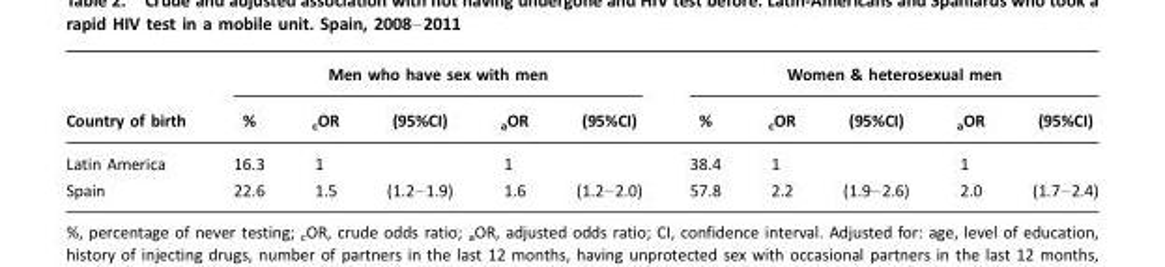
<table><thead><tr><td rowspan="2">Country of birth</td><td colspan="5">Men who have sex with men</td><td colspan="5">Women &amp; heterosexual men</td></tr><tr><td>%</td><td><sub>c</sub>OR</td><td>(95%CI)</td><td><sub>a</sub>OR</td><td>(95%CI)</td><td>%</td><td><sub>c</sub>OR</td><td>(95%CI)</td><td><sub>a</sub>OR</td><td>(95%CI)</td></tr></thead><tbody><tr><td>Latin America</td><td>16.3</td><td>1</td><td></td><td>1</td><td></td><td>38.4</td><td>1</td><td></td><td>1</td><td></td></tr><tr><td>Spain</td><td>22.6</td><td>1.5</td><td>(1.2–1.9)</td><td>1.6</td><td>(1.2–2.0)</td><td>57.8</td><td>2.2</td><td>(1.9–2.6)</td><td>2.0</td><td>(1.7–2.4)</td></tr></tbody></table>